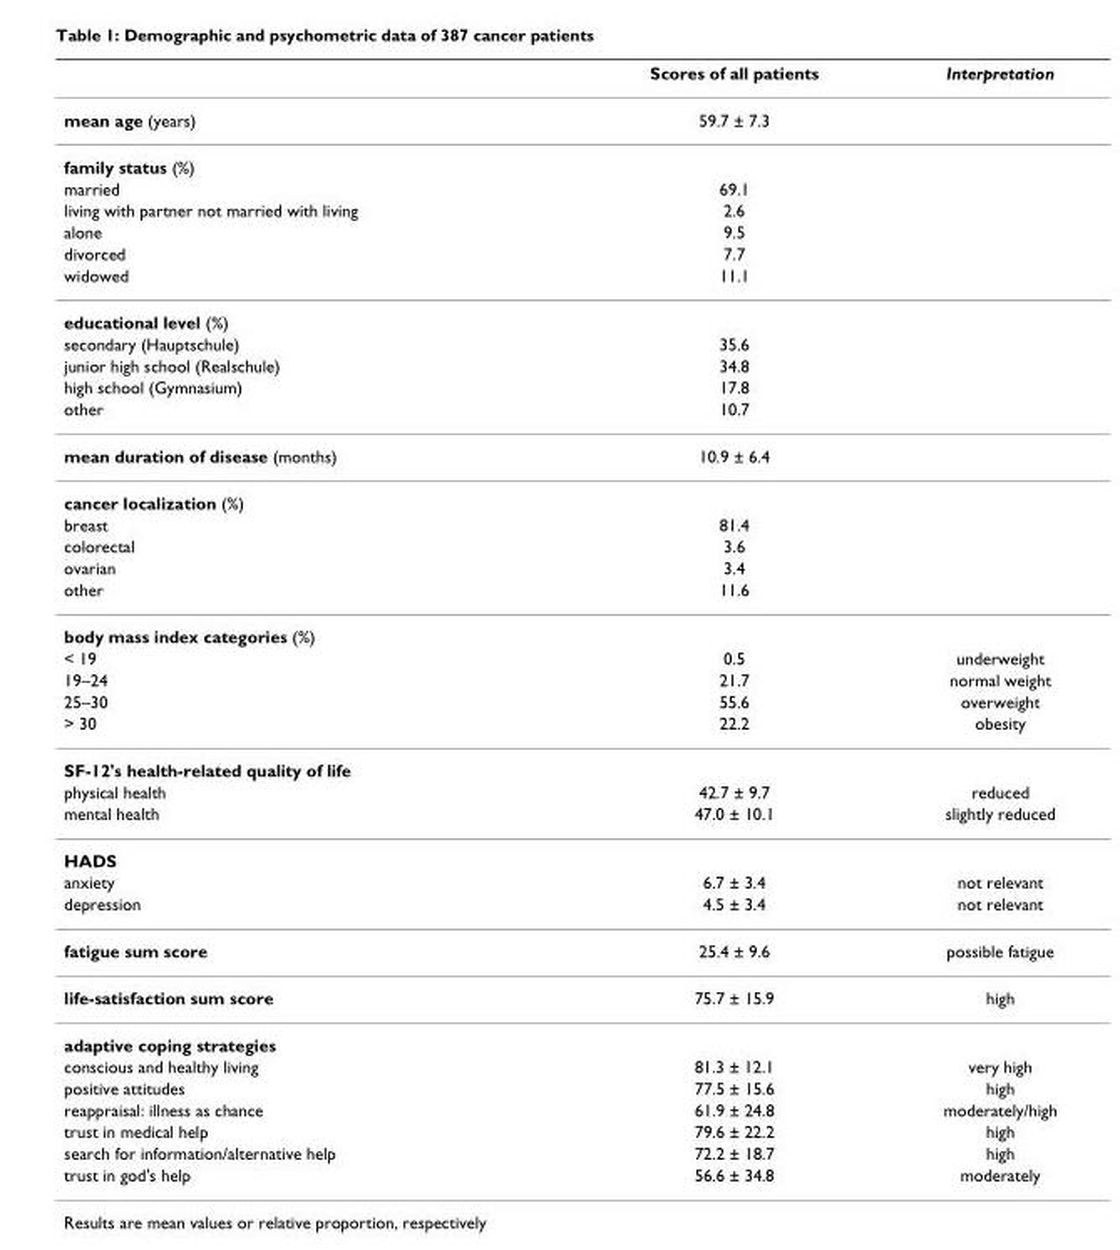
<table><thead><tr><td></td><td>Scores of all patients</td><td>Interpretation</td></tr></thead><tbody><tr><td>mean age (years)</td><td>59.7 ± 7.3</td><td></td></tr><tr><td colspan="3">family status (%)</td></tr><tr><td>married</td><td>69.1</td><td></td></tr><tr><td>living with partner not married with living</td><td>2.6</td><td></td></tr><tr><td>alone</td><td>9.5</td><td></td></tr><tr><td>divorced</td><td>7.7</td><td></td></tr><tr><td>widowed</td><td>11.1</td><td></td></tr><tr><td colspan="3">educational level (%)</td></tr><tr><td>secondary (Hauptschule)</td><td>35.6</td><td></td></tr><tr><td>junior high school (Realschule)</td><td>34.8</td><td></td></tr><tr><td>high school (Gymnasium)</td><td>17.8</td><td></td></tr><tr><td>other</td><td>10.7</td><td></td></tr><tr><td>mean duration of disease (months)</td><td>10.9 ± 6.4</td><td></td></tr><tr><td colspan="3">cancer localization (%)</td></tr><tr><td>breast</td><td>81.4</td><td></td></tr><tr><td>colorectal</td><td>3.6</td><td></td></tr><tr><td>ovarian</td><td>3.4</td><td></td></tr><tr><td>other</td><td>11.6</td><td></td></tr><tr><td colspan="3">body mass index categories (%)</td></tr><tr><td>&lt; 19</td><td>0.5</td><td>underweight</td></tr><tr><td>19–24</td><td>21.7</td><td>normal weight</td></tr><tr><td>25–30</td><td>55.6</td><td>overweight</td></tr><tr><td>&gt; 30</td><td>22.2</td><td>obesity</td></tr><tr><td colspan="3">SF-12&#x27;s health-related quality of life</td></tr><tr><td>physical health</td><td>42.7 ± 9.7</td><td>reduced</td></tr><tr><td>mental health</td><td>47.0 ± 10.1</td><td>slightly reduced</td></tr><tr><td colspan="3">HADS</td></tr><tr><td>anxiety</td><td>6.7 ± 3.4</td><td>not relevant</td></tr><tr><td>depression</td><td>4.5 ± 3.4</td><td>not relevant</td></tr><tr><td>fatigue sum score</td><td>25.4 ± 9.6</td><td>possible fatigue</td></tr><tr><td>life-satisfaction sum score</td><td>75.7 ± 15.9</td><td>high</td></tr><tr><td colspan="3">adaptive coping strategies</td></tr><tr><td>conscious and healthy living</td><td>81.3 ± 12.1</td><td>very high</td></tr><tr><td>positive attitudes</td><td>77.5 ± 15.6</td><td>high</td></tr><tr><td>reappraisal: illness as chance</td><td>61.9 ± 24.8</td><td>moderately/high</td></tr><tr><td>trust in medical help</td><td>79.6 ± 22.2</td><td>high</td></tr><tr><td>search for information/alternative help</td><td>72.2 ± 18.7</td><td>high</td></tr><tr><td>trust in god&#x27;s help</td><td>56.6 ± 34.8</td><td>moderately</td></tr></tbody></table>